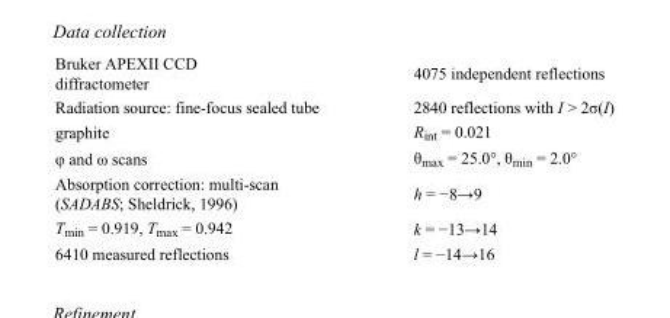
<table><tbody><tr><td>Bruker APEXII CCD diffractometer</td><td>4075 independent reflections</td></tr><tr><td>Radiation source: fine-focus sealed tube</td><td>2840 reflections with I &gt; 2σ(I)</td></tr><tr><td>graphite</td><td>R<sub>int</sub> = 0.021</td></tr><tr><td>φ and ω scans</td><td>θ<sub>max</sub> = 25.0°, θ<sub>min</sub> = 2.0°</td></tr><tr><td>Absorption correction: multi-scan (SADABS; Sheldrick, 1996)</td><td>h = −8→9</td></tr><tr><td>T<sub>min</sub> = 0.919, T<sub>max</sub> = 0.942</td><td>k = −13→14</td></tr><tr><td>6410 measured reflections</td><td>l = −14→16</td></tr></tbody></table>